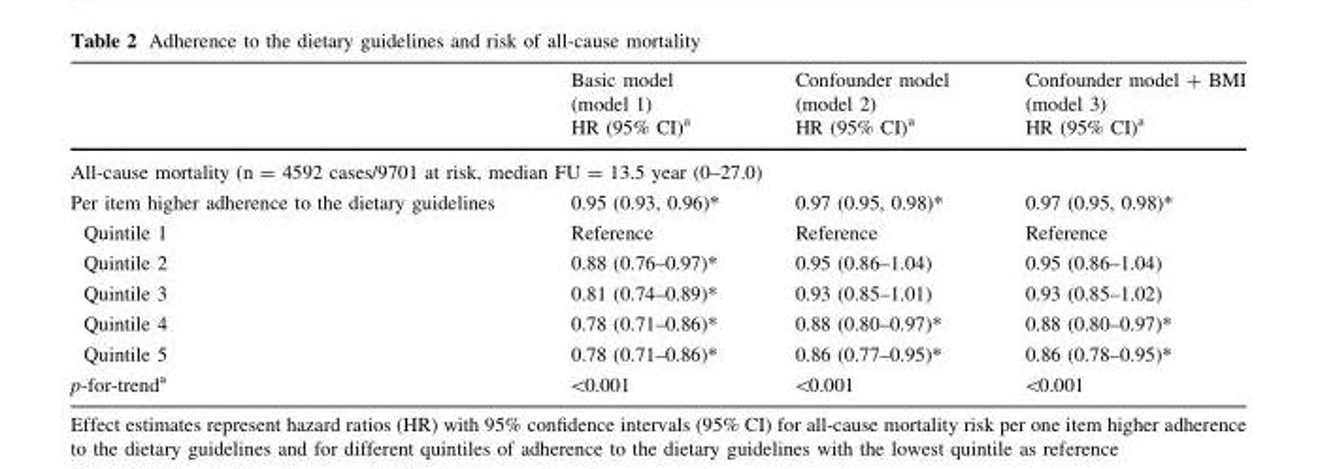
<table><thead><tr><td></td><td>Basic model (model 1) HR (95% CI)<sup>a</sup></td><td>Confounder model (model 2) HR (95% CI)<sup>a</sup></td><td>Confounder model + BMI (model 3) HR (95% CI)<sup>a</sup></td></tr></thead><tbody><tr><td colspan="4">All-cause mortality (n = 4592 cases/9701 at risk, median FU = 13.5 year (0–27.0)</td></tr><tr><td>Per item higher adherence to the dietary guidelines</td><td>0.95 (0.93, 0.96)*</td><td>0.97 (0.95, 0.98)*</td><td>0.97 (0.95, 0.98)*</td></tr><tr><td>Quintile 1</td><td>Reference</td><td>Reference</td><td>Reference</td></tr><tr><td>Quintile 2</td><td>0.88 (0.76–0.97)*</td><td>0.95 (0.86–1.04)</td><td>0.95 (0.86–1.04)</td></tr><tr><td>Quintile 3</td><td>0.81 (0.74–0.89)*</td><td>0.93 (0.85–1.01)</td><td>0.93 (0.85–1.02)</td></tr><tr><td>Quintile 4</td><td>0.78 (0.71–0.86)*</td><td>0.88 (0.80–0.97)*</td><td>0.88 (0.80–0.97)*</td></tr><tr><td>Quintile 5</td><td>0.78 (0.71–0.86)*</td><td>0.86 (0.77–0.95)*</td><td>0.86 (0.78–0.95)*</td></tr><tr><td>p-for-trend<sup>a</sup></td><td>&lt;0.001</td><td>&lt;0.001</td><td>&lt;0.001</td></tr></tbody></table>